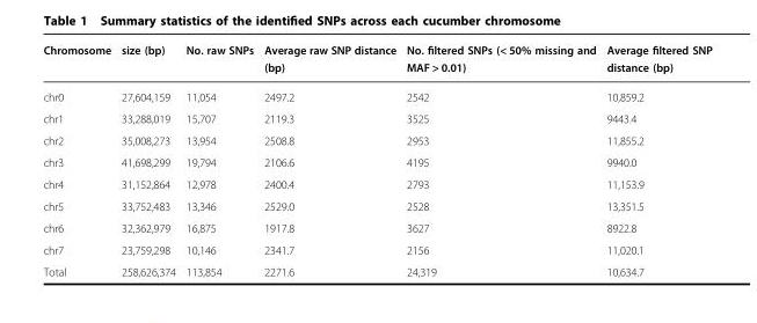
<table><thead><tr><td>Chromosome</td><td>size (bp)</td><td>No. raw SNPs</td><td>Average raw SNP distance (bp)</td><td>No. filtered SNPs (&lt; 50% missing and MAF &gt; 0.01)</td><td>Average filtered SNP distance (bp)</td></tr></thead><tbody><tr><td>chr0</td><td>27,604,159</td><td>11,054</td><td>2497.2</td><td>2542</td><td>10,859.2</td></tr><tr><td>chr1</td><td>33,288,019</td><td>15,707</td><td>2119.3</td><td>3525</td><td>9443.4</td></tr><tr><td>chr2</td><td>35,008,273</td><td>13,954</td><td>2508.8</td><td>2953</td><td>11,855.2</td></tr><tr><td>chr3</td><td>41,698,299</td><td>19,794</td><td>2106.6</td><td>4195</td><td>9940.0</td></tr><tr><td>chr4</td><td>31,152,864</td><td>12,978</td><td>2400.4</td><td>2793</td><td>11,153.9</td></tr><tr><td>chr5</td><td>33,752,483</td><td>13,346</td><td>2529.0</td><td>2528</td><td>13,351.5</td></tr><tr><td>chr6</td><td>32,362,979</td><td>16,875</td><td>1917.8</td><td>3627</td><td>8922.8</td></tr><tr><td>chr7</td><td>23,759,298</td><td>10,146</td><td>2341.7</td><td>2156</td><td>11,020.1</td></tr><tr><td>Total</td><td>258,626,374</td><td>113,854</td><td>2271.6</td><td>24,319</td><td>10,634.7</td></tr></tbody></table>